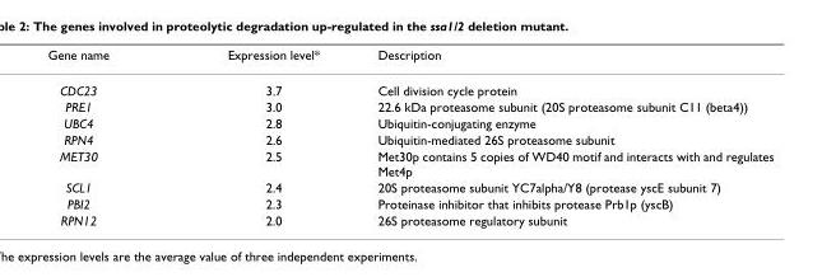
<table><thead><tr><td>Gene name</td><td>Expression level*</td><td>Description</td></tr></thead><tbody><tr><td>CDC23</td><td>3.7</td><td>Cell division cycle protein</td></tr><tr><td>PRE1</td><td>3.0</td><td>22.6 kDa proteasome subunit (20S proteasome subunit C11 (beta4))</td></tr><tr><td>UBC4</td><td>2.8</td><td>Ubiquitin-conjugating enzyme</td></tr><tr><td>RPN4</td><td>2.6</td><td>Ubiquitin-mediated 26S proteasome subunit</td></tr><tr><td>MET30</td><td>2.5</td><td>Met30p contains 5 copies of WD40 motif and interacts with and regulates Met4p</td></tr><tr><td>SCL1</td><td>2.4</td><td>20S proteasome subunit YC7alpha/Y8 (protease yscE subunit 7)</td></tr><tr><td>PBI2</td><td>2.3</td><td>Proteinase inhibitor that inhibits protease Prb1p (yscB)</td></tr><tr><td>RPN12</td><td>2.0</td><td>26S proteasome regulatory subunit</td></tr></tbody></table>